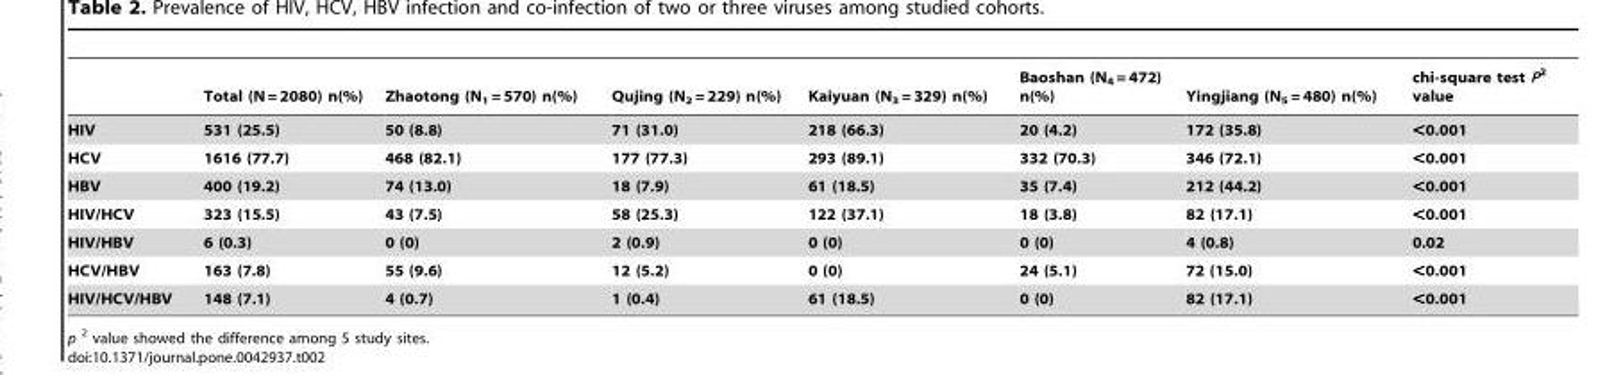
<table><thead><tr><td></td><td>Total (N = 2080) n(%)</td><td>Zhaotong (N<sub>1</sub> = 570) n(%)</td><td>Qujing (N<sub>2</sub> = 229) n(%)</td><td>Kaiyuan (N<sub>3</sub> = 329) n(%)</td><td>Baoshan (N<sub>4</sub> = 472) n(%)</td><td>Yingjiang (N<sub>5</sub> = 480) n(%)</td><td>chi-square test P<sup>2</sup> value</td></tr></thead><tbody><tr><td>HIV</td><td>531 (25.5)</td><td>50 (8.8)</td><td>71 (31.0)</td><td>218 (66.3)</td><td>20 (4.2)</td><td>172 (35.8)</td><td>&lt;0.001</td></tr><tr><td>HCV</td><td>1616 (77.7)</td><td>468 (82.1)</td><td>177 (77.3)</td><td>293 (89.1)</td><td>332 (70.3)</td><td>346 (72.1)</td><td>&lt;0.001</td></tr><tr><td>HBV</td><td>400 (19.2)</td><td>74 (13.0)</td><td>18 (7.9)</td><td>61 (18.5)</td><td>35 (7.4)</td><td>212 (44.2)</td><td>&lt;0.001</td></tr><tr><td>HIV/HCV</td><td>323 (15.5)</td><td>43 (7.5)</td><td>58 (25.3)</td><td>122 (37.1)</td><td>18 (3.8)</td><td>82 (17.1)</td><td>&lt;0.001</td></tr><tr><td>HIV/HBV</td><td>6 (0.3)</td><td>0 (0)</td><td>2 (0.9)</td><td>0 (0)</td><td>0 (0)</td><td>4 (0.8)</td><td>0.02</td></tr><tr><td>HCV/HBV</td><td>163 (7.8)</td><td>55 (9.6)</td><td>12 (5.2)</td><td>0 (0)</td><td>24 (5.1)</td><td>72 (15.0)</td><td>&lt;0.001</td></tr><tr><td>HIV/HCV/HBV</td><td>148 (7.1)</td><td>4 (0.7)</td><td>1 (0.4)</td><td>61 (18.5)</td><td>0 (0)</td><td>82 (17.1)</td><td>&lt;0.001</td></tr></tbody></table>